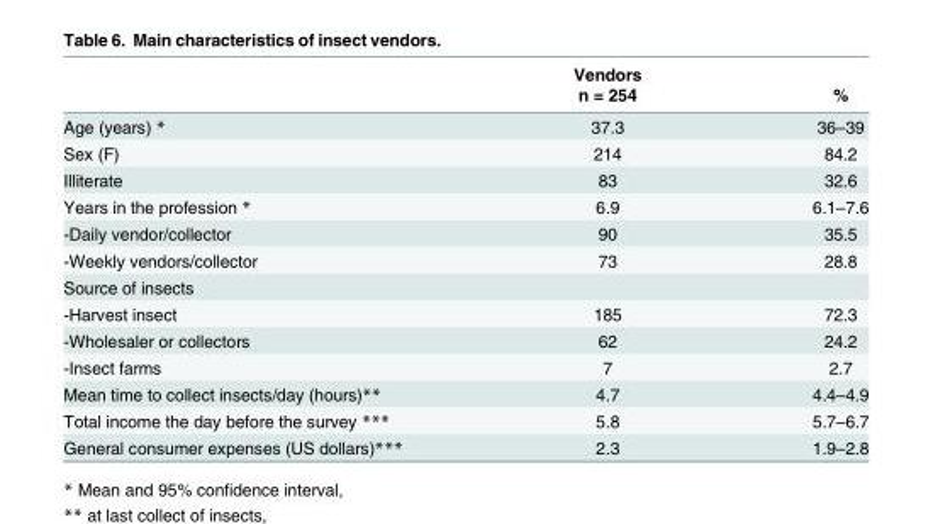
<table><thead><tr><td rowspan="2"></td><td rowspan="2">Vendors n = 254</td><td rowspan="2">%</td></tr><tr></tr></thead><tbody><tr><td>Age (years) *</td><td>37.3</td><td>36–39</td></tr><tr><td>Sex (F)</td><td>214</td><td>84.2</td></tr><tr><td>Illiterate</td><td>83</td><td>32.6</td></tr><tr><td>Years in the profession *</td><td>6.9</td><td>6.1–7.6</td></tr><tr><td>-Daily vendor/collector</td><td>90</td><td>35.5</td></tr><tr><td>-Weekly vendors/collector</td><td>73</td><td>28.8</td></tr><tr><td colspan="3">Source of insects</td></tr><tr><td>-Harvest insect</td><td>185</td><td>72.3</td></tr><tr><td>-Wholesaler or collectors</td><td>62</td><td>24.2</td></tr><tr><td>-Insect farms</td><td>7</td><td>2.7</td></tr><tr><td>Mean time to collect insects/day (hours)**</td><td>4.7</td><td>4.4–4.9</td></tr><tr><td>Total income the day before the survey ***</td><td>5.8</td><td>5.7–6.7</td></tr><tr><td>General consumer expenses (US dollars)***</td><td>2.3</td><td>1.9–2.8</td></tr></tbody></table>